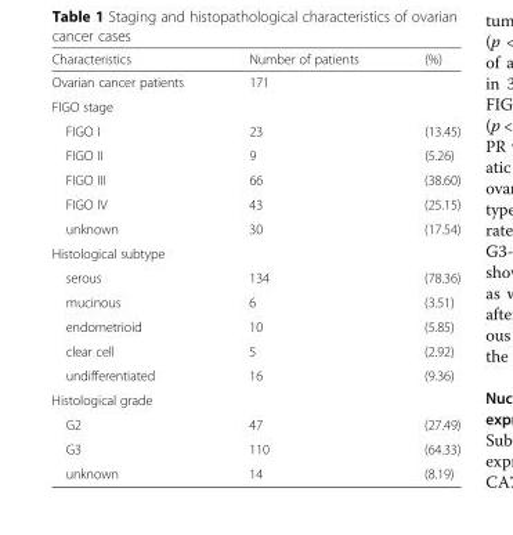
<table><thead><tr><td>Characteristics</td><td>Number of patients</td><td>(%)</td></tr></thead><tbody><tr><td>Ovarian cancer patients</td><td>171</td><td></td></tr><tr><td colspan="3">FIGO stage</td></tr><tr><td>FIGO I</td><td>23</td><td>(13.45)</td></tr><tr><td>FIGO II</td><td>9</td><td>(5.26)</td></tr><tr><td>FIGO III</td><td>66</td><td>(38.60)</td></tr><tr><td>FIGO IV</td><td>43</td><td>(25.15)</td></tr><tr><td>unknown</td><td>30</td><td>(17.54)</td></tr><tr><td colspan="3">Histological subtype</td></tr><tr><td>serous</td><td>134</td><td>(78.36)</td></tr><tr><td>mucinous</td><td>6</td><td>(3.51)</td></tr><tr><td>endometrioid</td><td>10</td><td>(5.85)</td></tr><tr><td>clear cell</td><td>5</td><td>(2.92)</td></tr><tr><td>undifferentiated</td><td>16</td><td>(9.36)</td></tr><tr><td colspan="3">Histological grade</td></tr><tr><td>G2</td><td>47</td><td>(27.49)</td></tr><tr><td>G3</td><td>110</td><td>(64.33)</td></tr><tr><td>unknown</td><td>14</td><td>(8.19)</td></tr></tbody></table>